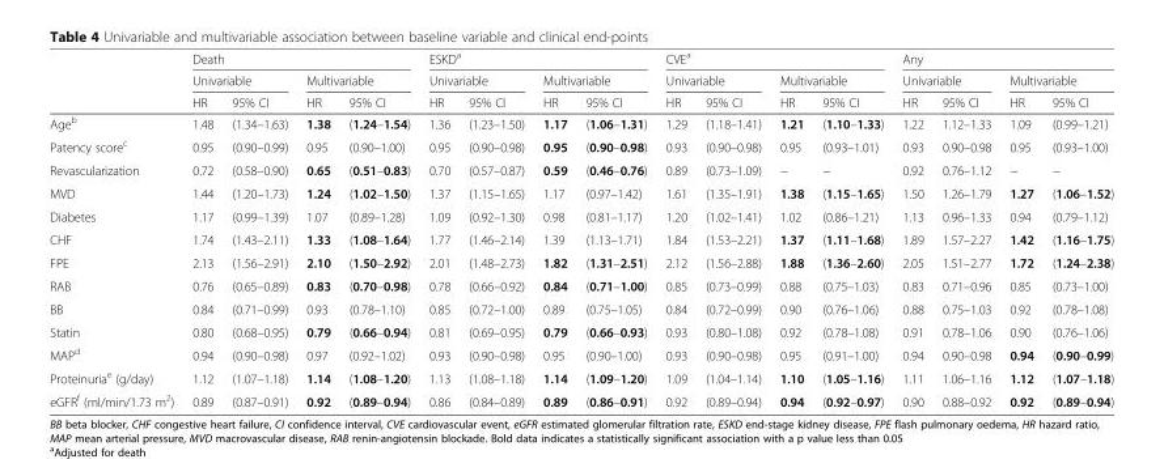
<table><thead><tr><td rowspan="3"></td><td colspan="4">Death</td><td colspan="4">ESKD<sup>a</sup></td><td colspan="4">CVE<sup>a</sup></td><td colspan="4">Any</td></tr><tr><td colspan="2">Univariable</td><td colspan="2">Multivariable</td><td colspan="2">Univariable</td><td colspan="2">Multivariable</td><td colspan="2">Univariable</td><td colspan="2">Multivariable</td><td colspan="2">Univariable</td><td colspan="2">Multivariable</td></tr><tr><td>HR</td><td>95% CI</td><td>HR</td><td>95% CI</td><td>HR</td><td>95% CI</td><td>HR</td><td>95% CI</td><td>HR</td><td>95% CI</td><td>HR</td><td>95% CI</td><td>HR</td><td>95% CI</td><td>HR</td><td>95% CI</td></tr></thead><tbody><tr><td>Age<sup>b</sup></td><td>1.48</td><td>(1.34–1.63)</td><td>1.38</td><td>(1.24–1.54)</td><td>1.36</td><td>(1.23–1.50)</td><td>1.17</td><td>(1.06–1.31)</td><td>1.29</td><td>(1.18–1.41)</td><td>1.21</td><td>(1.10–1.33)</td><td>1.22</td><td>1.12–1.33</td><td>1.09</td><td>(0.99–1.21)</td></tr><tr><td>Patency score<sup>c</sup></td><td>0.95</td><td>(0.90–0.99)</td><td>0.95</td><td>(0.90–1.00)</td><td>0.95</td><td>(0.90–0.98)</td><td>0.95</td><td>(0.90–0.98)</td><td>0.93</td><td>(0.90–0.98)</td><td>0.95</td><td>(0.93–1.01)</td><td>0.93</td><td>0.90–0.98</td><td>0.95</td><td>(0.93–1.00)</td></tr><tr><td>Revascularization</td><td>0.72</td><td>(0.58–0.90)</td><td>0.65</td><td>(0.51–0.83)</td><td>0.70</td><td>(0.57–0.87)</td><td>0.59</td><td>(0.46–0.76)</td><td>0.89</td><td>(0.73–1.09)</td><td>−</td><td>−</td><td>0.92</td><td>0.76–1.12</td><td>−</td><td>−</td></tr><tr><td>MVD</td><td>1.44</td><td>(1.20–1.73)</td><td>1.24</td><td>(1.02–1.50)</td><td>1.37</td><td>(1.15–1.65)</td><td>1.17</td><td>(0.97–1.42)</td><td>1.61</td><td>(1.35–1.91)</td><td>1.38</td><td>(1.15–1.65)</td><td>1.50</td><td>1.26–1.79</td><td>1.27</td><td>(1.06–1.52)</td></tr><tr><td>Diabetes</td><td>1.17</td><td>(0.99–1.39)</td><td>1.07</td><td>(0.89–1.28)</td><td>1.09</td><td>(0.92–1.30)</td><td>0.98</td><td>(0.81–1.17)</td><td>1.20</td><td>(1.02–1.41)</td><td>1.02</td><td>(0.86–1.21)</td><td>1.13</td><td>0.96–1.33</td><td>0.94</td><td>(0.79–1.12)</td></tr><tr><td>CHF</td><td>1.74</td><td>(1.43–2.11)</td><td>1.33</td><td>(1.08–1.64)</td><td>1.77</td><td>(1.46–2.14)</td><td>1.39</td><td>(1.13–1.71)</td><td>1.84</td><td>(1.53–2.21)</td><td>1.37</td><td>(1.11–1.68)</td><td>1.89</td><td>1.57–2.27</td><td>1.42</td><td>(1.16–1.75)</td></tr><tr><td>FPE</td><td>2.13</td><td>(1.56–2.91)</td><td>2.10</td><td>(1.50–2.92)</td><td>2.01</td><td>(1.48–2.73)</td><td>1.82</td><td>(1.31–2.51)</td><td>2.12</td><td>(1.56–2.88)</td><td>1.88</td><td>(1.36–2.60)</td><td>2.05</td><td>1.51–2.77</td><td>1.72</td><td>(1.24–2.38)</td></tr><tr><td>RAB</td><td>0.76</td><td>(0.65–0.89)</td><td>0.83</td><td>(0.70–0.98)</td><td>0.78</td><td>(0.66–0.92)</td><td>0.84</td><td>(0.71–1.00)</td><td>0.85</td><td>(0.73–0.99)</td><td>0.88</td><td>(0.75–1.03)</td><td>0.83</td><td>0.71–0.96</td><td>0.85</td><td>(0.73–1.00)</td></tr><tr><td>BB</td><td>0.84</td><td>(0.71–0.99)</td><td>0.93</td><td>(0.78–1.10)</td><td>0.85</td><td>(0.72–1.00)</td><td>0.89</td><td>(0.75–1.05)</td><td>0.84</td><td>(0.72–0.99)</td><td>0.90</td><td>(0.76–1.06)</td><td>0.88</td><td>0.75–1.03</td><td>0.92</td><td>(0.78–1.08)</td></tr><tr><td>Statin</td><td>0.80</td><td>(0.68–0.95)</td><td>0.79</td><td>(0.66–0.94)</td><td>0.81</td><td>(0.69–0.95)</td><td>0.79</td><td>(0.66–0.93)</td><td>0.93</td><td>(0.80–1.08)</td><td>0.92</td><td>(0.78–1.08)</td><td>0.91</td><td>0.78–1.06</td><td>0.90</td><td>(0.76–1.06)</td></tr><tr><td>MAP<sup>d</sup></td><td>0.94</td><td>(0.90–0.98)</td><td>0.97</td><td>(0.92–1.02)</td><td>0.93</td><td>(0.90–0.98)</td><td>0.95</td><td>(0.90–1.00)</td><td>0.93</td><td>(0.90–0.98)</td><td>0.95</td><td>(0.91–1.00)</td><td>0.94</td><td>0.90–0.98</td><td>0.94</td><td>(0.90–0.99)</td></tr><tr><td>Proteinuria<sup>e</sup> (g/day)</td><td>1.12</td><td>(1.07–1.18)</td><td>1.14</td><td>(1.08–1.20)</td><td>1.13</td><td>(1.08–1.18)</td><td>1.14</td><td>(1.09–1.20)</td><td>1.09</td><td>(1.04–1.14)</td><td>1.10</td><td>(1.05–1.16)</td><td>1.11</td><td>1.06–1.16</td><td>1.12</td><td>(1.07–1.18)</td></tr><tr><td>eGFR<sup>f</sup> (ml/min/1.73 m<sup>2</sup>)</td><td>0.89</td><td>(0.87–0.91)</td><td>0.92</td><td>(0.89–0.94)</td><td>0.86</td><td>(0.84–0.89)</td><td>0.89</td><td>(0.86–0.91)</td><td>0.92</td><td>(0.89–0.94)</td><td>0.94</td><td>(0.92–0.97)</td><td>0.90</td><td>0.88–0.92</td><td>0.92</td><td>(0.89–0.94)</td></tr></tbody></table>